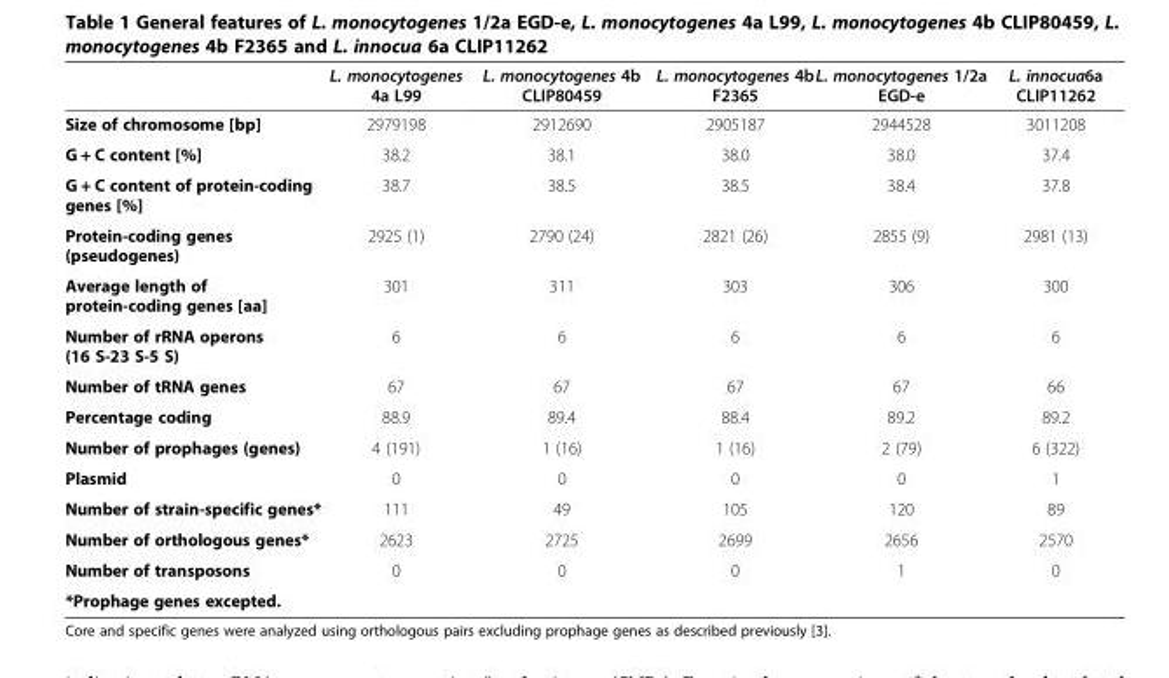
<table><thead><tr><td></td><td>L. monocytogenes 4a L99</td><td>L. monocytogenes 4b CLIP80459</td><td>L. monocytogenes 4b F2365</td><td>L. monocytogenes 1/2a EGD-e</td><td>L. innocua6a CLIP11262</td></tr></thead><tbody><tr><td>Size of chromosome [bp]</td><td>2979198</td><td>2912690</td><td>2905187</td><td>2944528</td><td>3011208</td></tr><tr><td>G + C content [%]</td><td>38.2</td><td>38.1</td><td>38.0</td><td>38.0</td><td>37.4</td></tr><tr><td>G + C content of protein-coding genes [%]</td><td>38.7</td><td>38.5</td><td>38.5</td><td>38.4</td><td>37.8</td></tr><tr><td>Protein-coding genes (pseudogenes)</td><td>2925 (1)</td><td>2790 (24)</td><td>2821 (26)</td><td>2855 (9)</td><td>2981 (13)</td></tr><tr><td>Average length of protein-coding genes [aa]</td><td>301</td><td>311</td><td>303</td><td>306</td><td>300</td></tr><tr><td>Number of rRNA operons (16 S-23 S-5 S)</td><td>6</td><td>6</td><td>6</td><td>6</td><td>6</td></tr><tr><td>Number of tRNA genes</td><td>67</td><td>67</td><td>67</td><td>67</td><td>66</td></tr><tr><td>Percentage coding</td><td>88.9</td><td>89.4</td><td>88.4</td><td>89.2</td><td>89.2</td></tr><tr><td>Number of prophages (genes)</td><td>4 (191)</td><td>1 (16)</td><td>1 (16)</td><td>2 (79)</td><td>6 (322)</td></tr><tr><td>Plasmid</td><td>0</td><td>0</td><td>0</td><td>0</td><td>1</td></tr><tr><td>Number of strain-specific genes*</td><td>111</td><td>49</td><td>105</td><td>120</td><td>89</td></tr><tr><td>Number of orthologous genes*</td><td>2623</td><td>2725</td><td>2699</td><td>2656</td><td>2570</td></tr><tr><td>Number of transposons</td><td>0</td><td>0</td><td>0</td><td>1</td><td>0</td></tr><tr><td>*Prophage genes excepted.</td><td></td><td></td><td></td><td></td><td></td></tr></tbody></table>